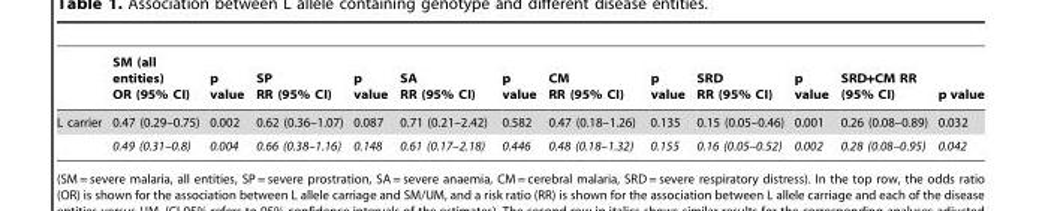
<table><thead><tr><td></td><td>SM (all entities) OR (95% CI)</td><td>p value</td><td>SP RR (95% CI)</td><td>p value</td><td>SA RR (95% CI)</td><td>p value</td><td>CM RR (95% CI)</td><td>p value</td><td>SRD RR (95% CI)</td><td>p value</td><td>SRD+CM RR (95% CI)</td><td>p value</td></tr></thead><tbody><tr><td rowspan="2">L carrier</td><td>0.47 (0.29–0.75)</td><td>0.002</td><td>0.62 (0.36–1.07)</td><td>0.087</td><td>0.71 (0.21–2.42)</td><td>0.582</td><td>0.47 (0.18–1.26)</td><td>0.135</td><td>0.15 (0.05–0.46)</td><td>0.001</td><td>0.26 (0.08–0.89)</td><td>0.032</td></tr><tr><td>0.49 (0.31–0.8)</td><td>0.004</td><td>0.66 (0.38–1.16)</td><td>0.148</td><td>0.61 (0.17–2.18)</td><td>0.446</td><td>0.48 (0.18–1.32)</td><td>0.155</td><td>0.16 (0.05–0.52)</td><td>0.002</td><td>0.28 (0.08–0.95)</td><td>0.042</td></tr></tbody></table>